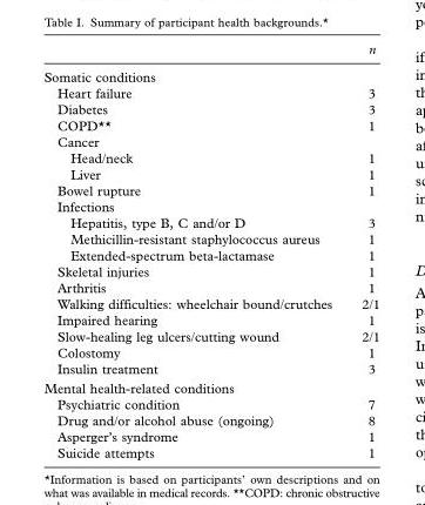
<table><thead><tr><td></td><td>n</td></tr></thead><tbody><tr><td colspan="2">Somatic conditions</td></tr><tr><td>Heart failure</td><td>3</td></tr><tr><td>Diabetes</td><td>3</td></tr><tr><td>COPD**</td><td>1</td></tr><tr><td colspan="2">Cancer</td></tr><tr><td>Head/neck</td><td>1</td></tr><tr><td>Liver</td><td>1</td></tr><tr><td>Bowel rupture</td><td>1</td></tr><tr><td colspan="2">Infections</td></tr><tr><td>Hepatitis, type B, C and/or D</td><td>3</td></tr><tr><td>Methicillin-resistant staphylococcus aureus</td><td>1</td></tr><tr><td>Extended-spectrum beta-lactamase</td><td>1</td></tr><tr><td>Skeletal injuries</td><td>1</td></tr><tr><td>Arthritis</td><td>1</td></tr><tr><td>Walking difficulties: wheelchair bound/crutches</td><td>2/1</td></tr><tr><td>Impaired hearing</td><td>1</td></tr><tr><td>Slow-healing leg ulcers/cutting wound</td><td>2/1</td></tr><tr><td>Colostomy</td><td>1</td></tr><tr><td>Insulin treatment</td><td>3</td></tr><tr><td colspan="2">Mental health-related conditions</td></tr><tr><td>Psychiatric condition</td><td>7</td></tr><tr><td>Drug and/or alcohol abuse (ongoing)</td><td>8</td></tr><tr><td>Asperger’s syndrome</td><td>1</td></tr><tr><td>Suicide attempts</td><td>1</td></tr></tbody></table>